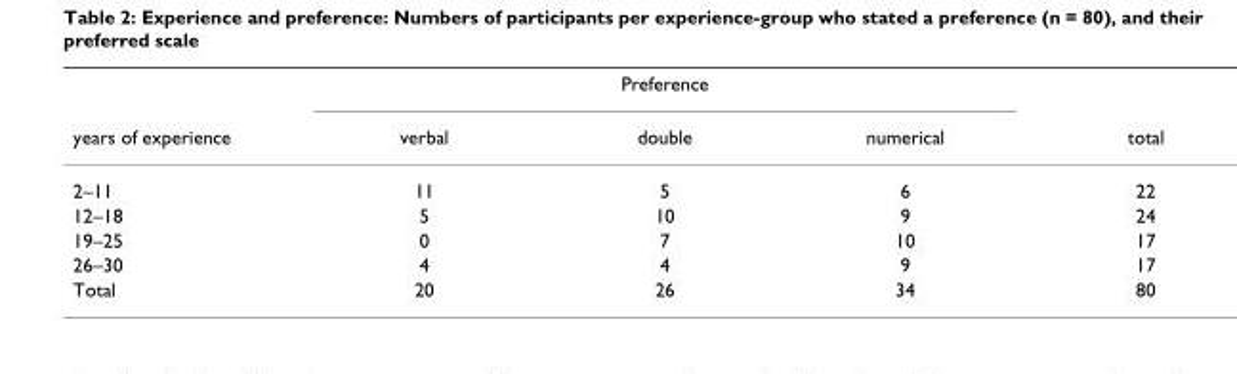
<table><thead><tr><td rowspan="2">years of experience</td><td colspan="3">Preference</td><td rowspan="2">total</td></tr><tr><td>verbal</td><td>double</td><td>numerical</td></tr></thead><tbody><tr><td>2–11</td><td>11</td><td>5</td><td>6</td><td>22</td></tr><tr><td>12–18</td><td>5</td><td>10</td><td>9</td><td>24</td></tr><tr><td>19–25</td><td>0</td><td>7</td><td>10</td><td>17</td></tr><tr><td>26–30</td><td>4</td><td>4</td><td>9</td><td>17</td></tr><tr><td>Total</td><td>20</td><td>26</td><td>34</td><td>80</td></tr></tbody></table>